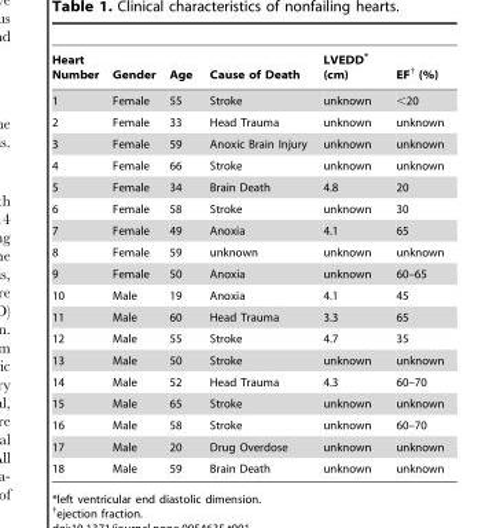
<table><thead><tr><td>Heart Number</td><td>Gender</td><td>Age</td><td>Cause of Death</td><td>LVEDD* (cm)</td><td>EF† (%)</td></tr></thead><tbody><tr><td>1</td><td>Female</td><td>55</td><td>Stroke</td><td>unknown</td><td>&lt;20</td></tr><tr><td>2</td><td>Female</td><td>33</td><td>Head Trauma</td><td>unknown</td><td>unknown</td></tr><tr><td>3</td><td>Female</td><td>59</td><td>Anoxic Brain Injury</td><td>unknown</td><td>unknown</td></tr><tr><td>4</td><td>Female</td><td>66</td><td>Stroke</td><td>unknown</td><td>unknown</td></tr><tr><td>5</td><td>Female</td><td>34</td><td>Brain Death</td><td>4.8</td><td>20</td></tr><tr><td>6</td><td>Female</td><td>58</td><td>Stroke</td><td>unknown</td><td>30</td></tr><tr><td>7</td><td>Female</td><td>49</td><td>Anoxia</td><td>4.1</td><td>65</td></tr><tr><td>8</td><td>Female</td><td>59</td><td>unknown</td><td>unknown</td><td>unknown</td></tr><tr><td>9</td><td>Female</td><td>50</td><td>Anoxia</td><td>unknown</td><td>60–65</td></tr><tr><td>10</td><td>Male</td><td>19</td><td>Anoxia</td><td>4.1</td><td>45</td></tr><tr><td>11</td><td>Male</td><td>60</td><td>Head Trauma</td><td>3.3</td><td>65</td></tr><tr><td>12</td><td>Male</td><td>55</td><td>Stroke</td><td>4.7</td><td>35</td></tr><tr><td>13</td><td>Male</td><td>50</td><td>Stroke</td><td>unknown</td><td>unknown</td></tr><tr><td>14</td><td>Male</td><td>52</td><td>Head Trauma</td><td>4.3</td><td>60–70</td></tr><tr><td>15</td><td>Male</td><td>65</td><td>Stroke</td><td>unknown</td><td>unknown</td></tr><tr><td>16</td><td>Male</td><td>58</td><td>Stroke</td><td>unknown</td><td>60–70</td></tr><tr><td>17</td><td>Male</td><td>20</td><td>Drug Overdose</td><td>unknown</td><td>unknown</td></tr><tr><td>18</td><td>Male</td><td>59</td><td>Brain Death</td><td>unknown</td><td>unknown</td></tr></tbody></table>